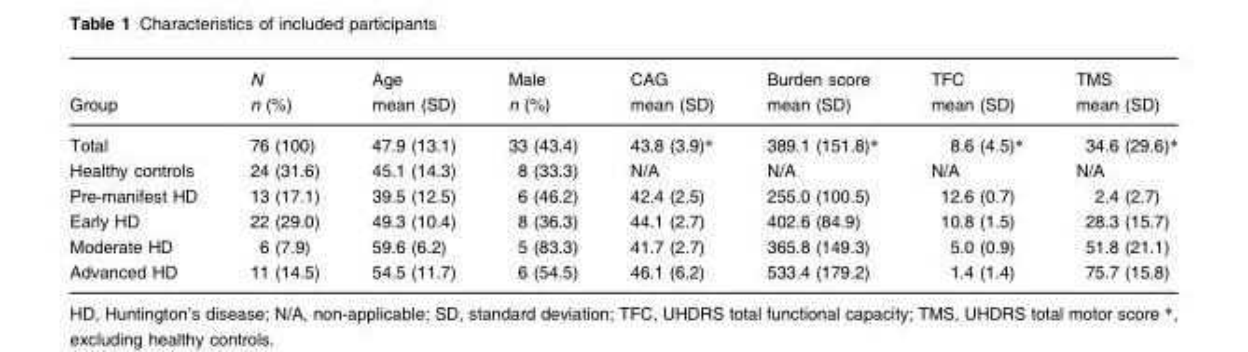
<table><thead><tr><td>Group</td><td>N n (%)</td><td>Age mean (SD)</td><td>Male n (%)</td><td>CAG mean (SD)</td><td>Burden score mean (SD)</td><td>TFC mean (SD)</td><td>TMS mean (SD)</td></tr></thead><tbody><tr><td>Total</td><td>76 (100)</td><td>47.9 (13.1)</td><td>33 (43.4)</td><td>43.8 (3.9)*</td><td>389.1 (151.8)*</td><td>8.6 (4.5)*</td><td>34.6 (29.6)*</td></tr><tr><td>Healthy controls</td><td>24 (31.6)</td><td>45.1 (14.3)</td><td>8 (33.3)</td><td>N/A</td><td>N/A</td><td>N/A</td><td>N/A</td></tr><tr><td>Pre-manifest HD</td><td>13 (17.1)</td><td>39.5 (12.5)</td><td>6 (46.2)</td><td>42.4 (2.5)</td><td>255.0 (100.5)</td><td>12.6 (0.7)</td><td>2.4 (2.7)</td></tr><tr><td>Early HD</td><td>22 (29.0)</td><td>49.3 (10.4)</td><td>8 (36.3)</td><td>44.1 (2.7)</td><td>402.6 (84.9)</td><td>10.8 (1.5)</td><td>28.3 (15.7)</td></tr><tr><td>Moderate HD</td><td>6 (7.9)</td><td>59.6 (6.2)</td><td>5 (83.3)</td><td>41.7 (2.7)</td><td>365.8 (149.3)</td><td>5.0 (0.9)</td><td>51.8 (21.1)</td></tr><tr><td>Advanced HD</td><td>11 (14.5)</td><td>54.5 (11.7)</td><td>6 (54.5)</td><td>46.1 (6.2)</td><td>533.4 (179.2)</td><td>1.4 (1.4)</td><td>75.7 (15.8)</td></tr></tbody></table>